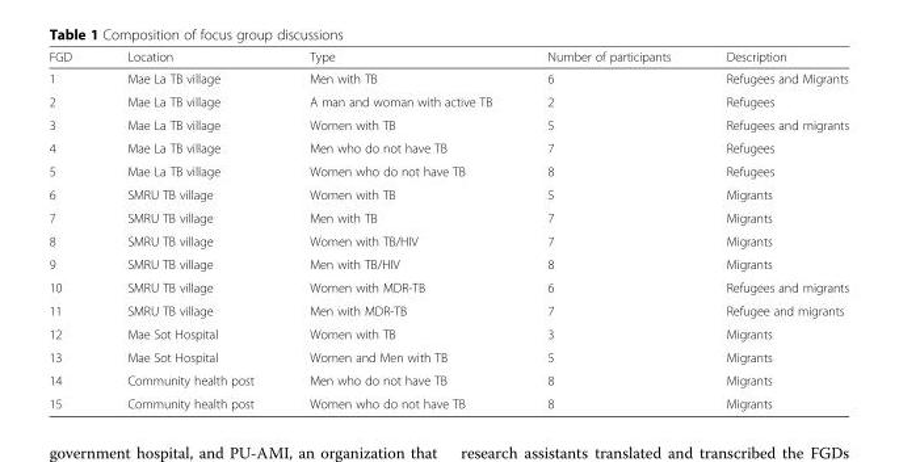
<table><thead><tr><td>FGD</td><td>Location</td><td>Type</td><td>Number of participants</td><td>Description</td></tr></thead><tbody><tr><td>1</td><td>Mae La TB village</td><td>Men with TB</td><td>6</td><td>Refugees and Migrants</td></tr><tr><td>2</td><td>Mae La TB village</td><td>A man and woman with active TB</td><td>2</td><td>Refugees</td></tr><tr><td>3</td><td>Mae La TB village</td><td>Women with TB</td><td>5</td><td>Refugees and migrants</td></tr><tr><td>4</td><td>Mae La TB village</td><td>Men who do not have TB</td><td>7</td><td>Refugees</td></tr><tr><td>5</td><td>Mae La TB village</td><td>Women who do not have TB</td><td>8</td><td>Refugees</td></tr><tr><td>6</td><td>SMRU TB village</td><td>Women with TB</td><td>5</td><td>Migrants</td></tr><tr><td>7</td><td>SMRU TB village</td><td>Men with TB</td><td>7</td><td>Migrants</td></tr><tr><td>8</td><td>SMRU TB village</td><td>Women with TB/HIV</td><td>7</td><td>Migrants</td></tr><tr><td>9</td><td>SMRU TB village</td><td>Men with TB/HIV</td><td>8</td><td>Migrants</td></tr><tr><td>10</td><td>SMRU TB village</td><td>Women with MDR-TB</td><td>6</td><td>Refugees and migrants</td></tr><tr><td>11</td><td>SMRU TB village</td><td>Men with MDR-TB</td><td>7</td><td>Refugee and migrants</td></tr><tr><td>12</td><td>Mae Sot Hospital</td><td>Women with TB</td><td>3</td><td>Migrants</td></tr><tr><td>13</td><td>Mae Sot Hospital</td><td>Women and Men with TB</td><td>5</td><td>Migrants</td></tr><tr><td>14</td><td>Community health post</td><td>Men who do not have TB</td><td>8</td><td>Migrants</td></tr><tr><td>15</td><td>Community health post</td><td>Women who do not have TB</td><td>8</td><td>Migrants</td></tr></tbody></table>